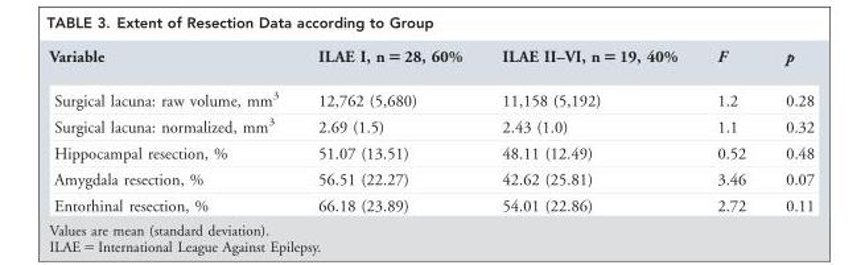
<table><thead><tr><td>Variable</td><td>ILAE I, n = 28, 60%</td><td>ILAE II–VI, n = 19, 40%</td><td>F</td><td>p</td></tr></thead><tbody><tr><td>Surgical lacuna: raw volume, mm<sup>3</sup></td><td>12,762 (5,680)</td><td>11,158 (5,192)</td><td>1.2</td><td>0.28</td></tr><tr><td>Surgical lacuna: normalized, mm<sup>3</sup></td><td>2.69 (1.5)</td><td>2.43 (1.0)</td><td>1.1</td><td>0.32</td></tr><tr><td>Hippocampal resection, %</td><td>51.07 (13.51)</td><td>48.11 (12.49)</td><td>0.52</td><td>0.48</td></tr><tr><td>Amygdala resection, %</td><td>56.51 (22.27)</td><td>42.62 (25.81)</td><td>3.46</td><td>0.07</td></tr><tr><td>Entorhinal resection, %</td><td>66.18 (23.89)</td><td>54.01 (22.86)</td><td>2.72</td><td>0.11</td></tr></tbody></table>